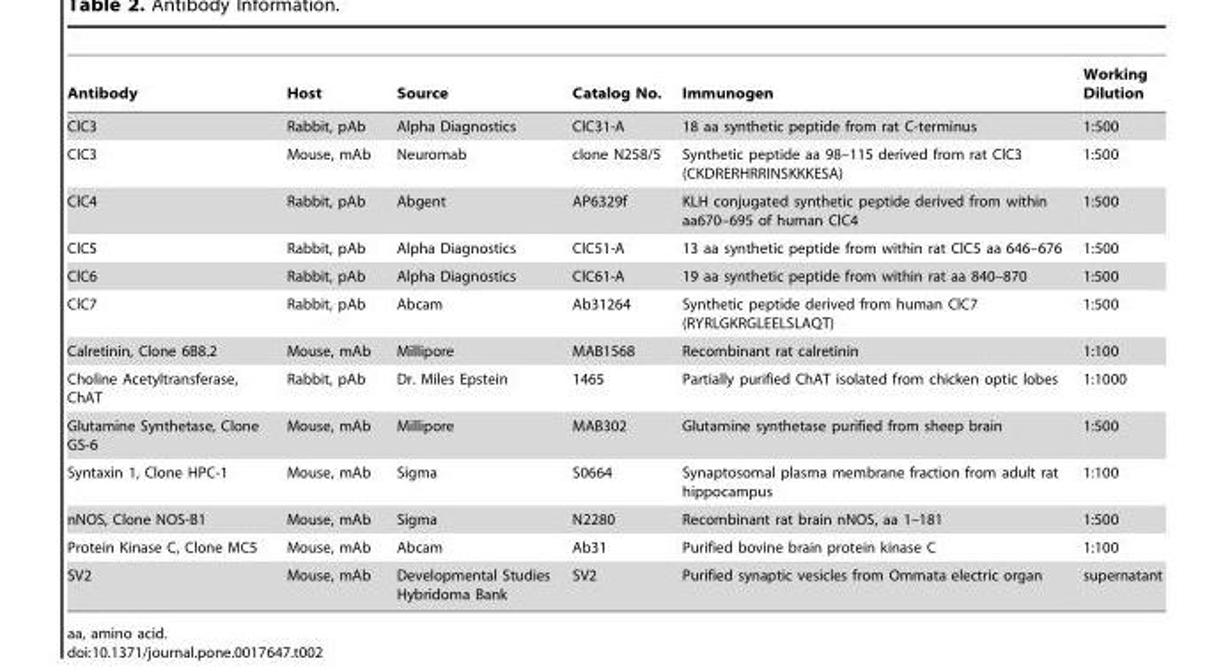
<table><thead><tr><td>Antibody</td><td>Host</td><td>Source</td><td>Catalog No.</td><td>Immunogen</td><td>Working Dilution</td></tr></thead><tbody><tr><td>ClC3</td><td>Rabbit, pAb</td><td>Alpha Diagnostics</td><td>ClC31-A</td><td>18 aa synthetic peptide from rat C-terminus</td><td>1:500</td></tr><tr><td>ClC3</td><td>Mouse, mAb</td><td>Neuromab</td><td>clone N258/5</td><td>Synthetic peptide aa 98–115 derived from rat ClC3 (CKDRERHRRINSKKKESA)</td><td>1:500</td></tr><tr><td>ClC4</td><td>Rabbit, pAb</td><td>Abgent</td><td>AP6329f</td><td>KLH conjugated synthetic peptide derived from within aa670–695 of human ClC4</td><td>1:500</td></tr><tr><td>ClC5</td><td>Rabbit, pAb</td><td>Alpha Diagnostics</td><td>ClC51-A</td><td>13 aa synthetic peptide from within rat ClC5 aa 646–676</td><td>1:500</td></tr><tr><td>ClC6</td><td>Rabbit, pAb</td><td>Alpha Diagnostics</td><td>ClC61-A</td><td>19 aa synthetic peptide from within rat aa 840–870</td><td>1:500</td></tr><tr><td>ClC7</td><td>Rabbit, pAb</td><td>Abcam</td><td>Ab31264</td><td>Synthetic peptide derived from human ClC7 (RYRLGKRGLEELSLAQT)</td><td>1:500</td></tr><tr><td>Calretinin, Clone 6B8.2</td><td>Mouse, mAb</td><td>Millipore</td><td>MAB1568</td><td>Recombinant rat calretinin</td><td>1:100</td></tr><tr><td>Choline Acetyltransferase, ChAT</td><td>Rabbit, pAb</td><td>Dr. Miles Epstein</td><td>1465</td><td>Partially purified ChAT isolated from chicken optic lobes</td><td>1:1000</td></tr><tr><td>Glutamine Synthetase, Clone GS-6</td><td>Mouse, mAb</td><td>Millipore</td><td>MAB302</td><td>Glutamine synthetase purified from sheep brain</td><td>1:500</td></tr><tr><td>Syntaxin 1, Clone HPC-1</td><td>Mouse, mAb</td><td>Sigma</td><td>S0664</td><td>Synaptosomal plasma membrane fraction from adult rat hippocampus</td><td>1:100</td></tr><tr><td>nNOS, Clone NOS-B1</td><td>Mouse, mAb</td><td>Sigma</td><td>N2280</td><td>Recombinant rat brain nNOS, aa 1–181</td><td>1:500</td></tr><tr><td>Protein Kinase C, Clone MC5</td><td>Mouse, mAb</td><td>Abcam</td><td>Ab31</td><td>Purified bovine brain protein kinase C</td><td>1:100</td></tr><tr><td>SV2</td><td>Mouse, mAb</td><td>Developmental Studies Hybridoma Bank</td><td>SV2</td><td>Purified synaptic vesicles from Ommata electric organ</td><td>supernatant</td></tr></tbody></table>